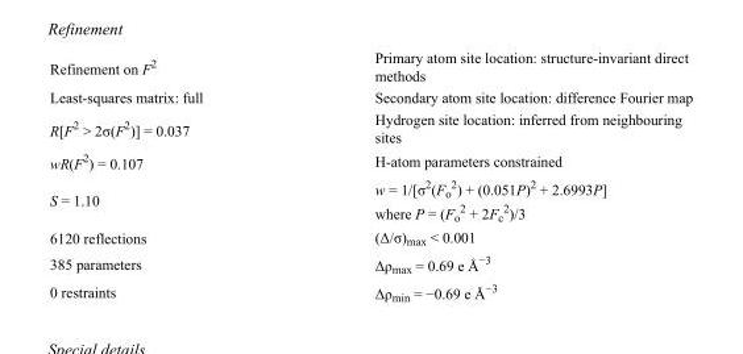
<table><tbody><tr><td>Refinement on F<sup>2</sup></td><td>Primary atom site location: structure-invariant direct methods</td></tr><tr><td>Least-squares matrix: full</td><td>Secondary atom site location: difference Fourier map</td></tr><tr><td>R[F<sup>2</sup> &gt; 2σ(F<sup>2</sup>)] = 0.037</td><td>Hydrogen site location: inferred from neighbouring sites</td></tr><tr><td>wR(F<sup>2</sup>) = 0.107</td><td>H-atom parameters constrained</td></tr><tr><td>S = 1.10</td><td>w = 1/[σ<sup>2</sup>(F<sub>o</sub> <sup>2</sup>) + (0.051P)<sup>2</sup> + 2.6993P] where P = (F<sub>o</sub> <sup>2</sup> + 2F<sub>c</sub> <sup>2</sup>)/3</td></tr><tr><td>6120 reflections</td><td>(Δ/σ)<sub>max</sub> &lt; 0.001</td></tr><tr><td>385 parameters</td><td>Δρ<sub>max</sub> = 0.69 e Å<sup>−3</sup></td></tr><tr><td>0 restraints</td><td>Δρ<sub>min</sub> = −0.69 e Å<sup>−3</sup></td></tr></tbody></table>